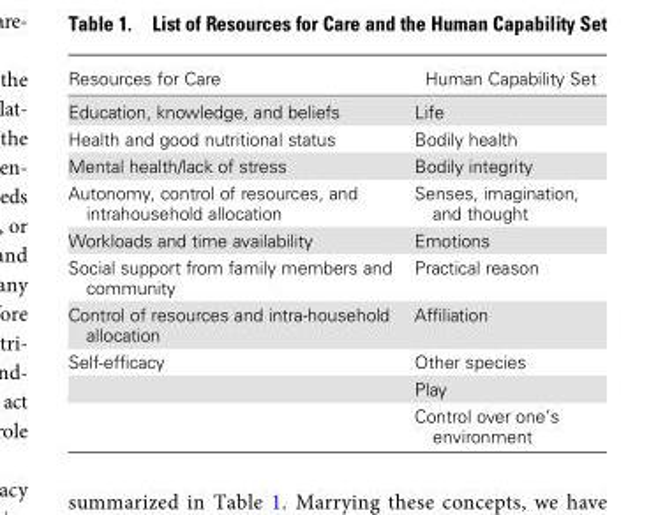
<table><thead><tr><td>Resources for Care</td><td>Human Capability Set</td></tr></thead><tbody><tr><td>Education, knowledge, and beliefs</td><td>Life</td></tr><tr><td>Health and good nutritional status</td><td>Bodily health</td></tr><tr><td>Mental health/lack of stress</td><td>Bodily integrity</td></tr><tr><td>Autonomy, control of resources, and intrahousehold allocation</td><td>Senses, imagination, and thought</td></tr><tr><td>Workloads and time availability</td><td>Emotions</td></tr><tr><td>Social support from family members and community</td><td>Practical reason</td></tr><tr><td>Control of resources and intra-household allocation</td><td>Affiliation</td></tr><tr><td rowspan="3">Self-efficacy</td><td>Other species</td></tr><tr><td>Play</td></tr><tr><td>Control over one’s environment</td></tr></tbody></table>